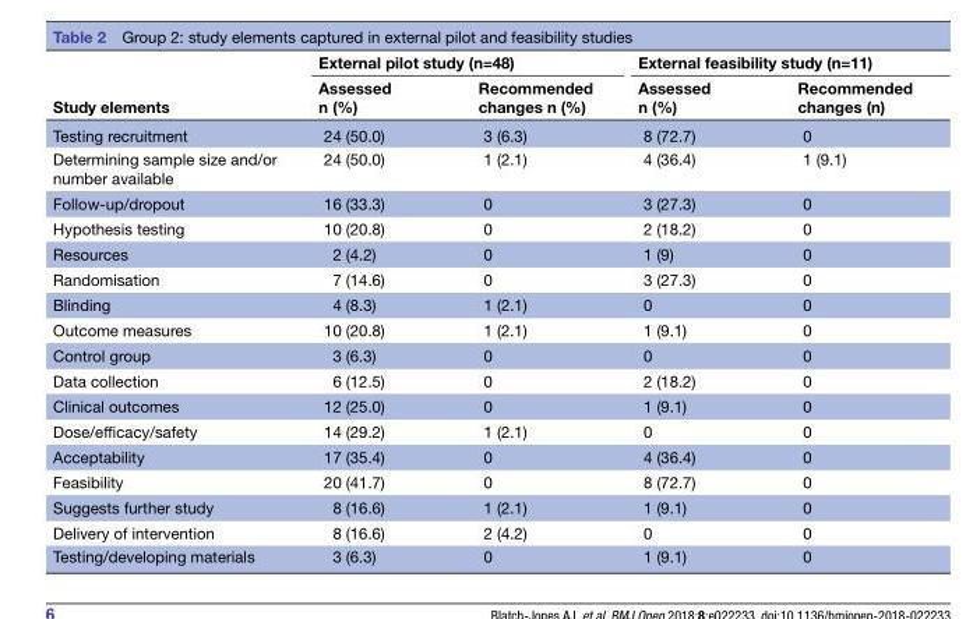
<table><thead><tr><td rowspan="2">Study elements</td><td colspan="2">External pilot study (n=48)</td><td colspan="2">External feasibility study (n=11)</td></tr><tr><td>Assessed n (%)</td><td>Recommended changes n (%)</td><td>Assessed n (%)</td><td>Recommended changes (n)</td></tr></thead><tbody><tr><td>Testing recruitment</td><td>24 (50.0)</td><td>3 (6.3)</td><td>8 (72.7)</td><td>0</td></tr><tr><td>Determining sample size and/or number available</td><td>24 (50.0)</td><td>1 (2.1)</td><td>4 (36.4)</td><td>1 (9.1)</td></tr><tr><td>Follow-up/dropout</td><td>16 (33.3)</td><td>0</td><td>3 (27.3)</td><td>0</td></tr><tr><td>Hypothesis testing</td><td>10 (20.8)</td><td>0</td><td>2 (18.2)</td><td>0</td></tr><tr><td>Resources</td><td>2 (4.2)</td><td>0</td><td>1 (9)</td><td>0</td></tr><tr><td>Randomisation</td><td>7 (14.6)</td><td>0</td><td>3 (27.3)</td><td>0</td></tr><tr><td>Blinding</td><td>4 (8.3)</td><td>1 (2.1)</td><td>0</td><td>0</td></tr><tr><td>Outcome measures</td><td>10 (20.8)</td><td>1 (2.1)</td><td>1 (9.1)</td><td>0</td></tr><tr><td>Control group</td><td>3 (6.3)</td><td>0</td><td>0</td><td>0</td></tr><tr><td>Data collection</td><td>6 (12.5)</td><td>0</td><td>2 (18.2)</td><td>0</td></tr><tr><td>Clinical outcomes</td><td>12 (25.0)</td><td>0</td><td>1 (9.1)</td><td>0</td></tr><tr><td>Dose/efficacy/safety</td><td>14 (29.2)</td><td>1 (2.1)</td><td>0</td><td>0</td></tr><tr><td>Acceptability</td><td>17 (35.4)</td><td>0</td><td>4 (36.4)</td><td>0</td></tr><tr><td>Feasibility</td><td>20 (41.7)</td><td>0</td><td>8 (72.7)</td><td>0</td></tr><tr><td>Suggests further study</td><td>8 (16.6)</td><td>1 (2.1)</td><td>1 (9.1)</td><td>0</td></tr><tr><td>Delivery of intervention</td><td>8 (16.6)</td><td>2 (4.2)</td><td>0</td><td>0</td></tr><tr><td>Testing/developing materials</td><td>3 (6.3)</td><td>0</td><td>1 (9.1)</td><td>0</td></tr></tbody></table>